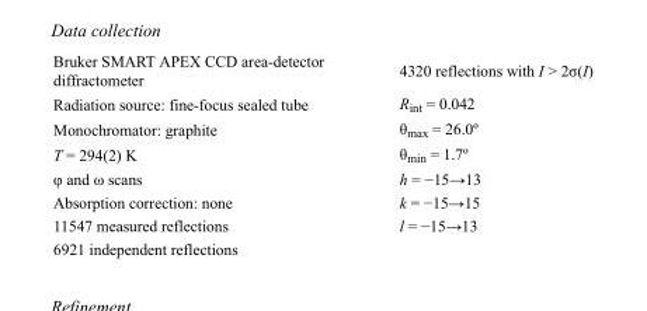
<table><tbody><tr><td>Bruker SMART APEX CCD area-detector diffractometer</td><td>4320 reflections with I &gt; 2σ(I)</td></tr><tr><td>Radiation source: fine-focus sealed tube</td><td>R<sub>int</sub> = 0.042</td></tr><tr><td>Monochromator: graphite</td><td>θ<sub>max</sub> = 26.0º</td></tr><tr><td>T = 294(2) K</td><td>θ<sub>min</sub> = 1.7º</td></tr><tr><td>φ and ω scans</td><td>h = −15→13</td></tr><tr><td>Absorption correction: none</td><td>k = −15→15</td></tr><tr><td>11547 measured reflections</td><td>l = −15→13</td></tr><tr><td>6921 independent reflections</td><td></td></tr></tbody></table>